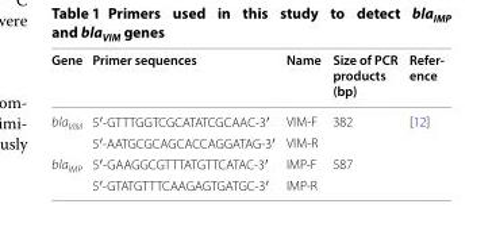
<table><thead><tr><td>Gene</td><td>Primer sequences</td><td>Name</td><td>Size of PCR products (bp)</td><td>Refer- ence</td></tr></thead><tbody><tr><td rowspan="2">bla<sub>VIM</sub></td><td>5′-GTT TGG TCG CAT ATC GCA AC-3′</td><td>VIM-F</td><td rowspan="2">382</td><td rowspan="4">[12]</td></tr><tr><td>5′-AAT GCG CAG CAC CAG GAT AG-3′</td><td>VIM-R</td></tr><tr><td rowspan="2">bla<sub>IMP</sub></td><td>5′-GAA GGC GTT TAT GTT CAT AC-3′</td><td>IMP-F</td><td rowspan="2">587</td></tr><tr><td>5′-GTA TGT TTC AAG AGT GAT GC-3′</td><td>IMP-R</td></tr></tbody></table>